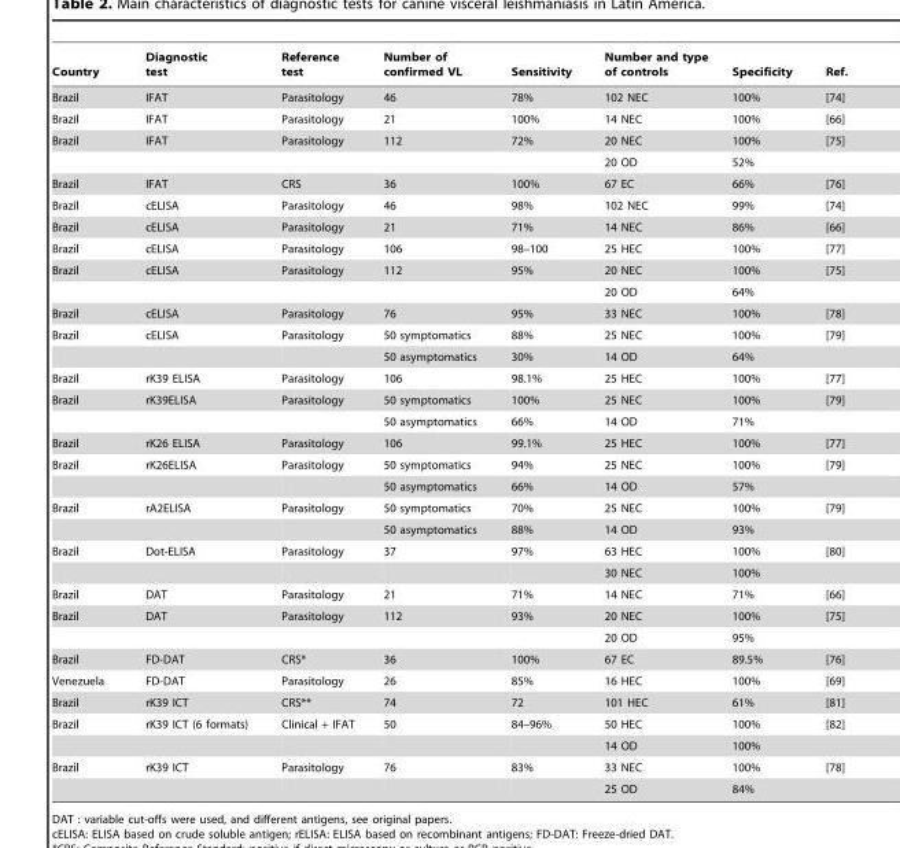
<table><thead><tr><td>Country</td><td>Diagnostic test</td><td>Reference test</td><td>Number of confirmed VL</td><td>Sensitivity</td><td>Number and type of controls</td><td>Specificity</td><td>Ref.</td></tr></thead><tbody><tr><td>Brazil</td><td>IFAT</td><td>Parasitology</td><td>46</td><td>78%</td><td>102 NEC</td><td>100%</td><td>[74]</td></tr><tr><td>Brazil</td><td>IFAT</td><td>Parasitology</td><td>21</td><td>100%</td><td>14 NEC</td><td>100%</td><td>[66]</td></tr><tr><td rowspan="2">Brazil</td><td>IFAT</td><td>Parasitology</td><td>112</td><td>72%</td><td>20 NEC</td><td>100%</td><td>[75]</td></tr><tr><td></td><td></td><td></td><td></td><td>20 OD</td><td>52%</td><td></td></tr><tr><td>Brazil</td><td>IFAT</td><td>CRS</td><td>36</td><td>100%</td><td>67 EC</td><td>66%</td><td>[76]</td></tr><tr><td>Brazil</td><td>cELISA</td><td>Parasitology</td><td>46</td><td>98%</td><td>102 NEC</td><td>99%</td><td>[74]</td></tr><tr><td>Brazil</td><td>cELISA</td><td>Parasitology</td><td>21</td><td>71%</td><td>14 NEC</td><td>86%</td><td>[66]</td></tr><tr><td>Brazil</td><td>cELISA</td><td>Parasitology</td><td>106</td><td>98–100</td><td>25 HEC</td><td>100%</td><td>[77]</td></tr><tr><td rowspan="2">Brazil</td><td>cELISA</td><td>Parasitology</td><td>112</td><td>95%</td><td>20 NEC</td><td>100%</td><td>[75]</td></tr><tr><td></td><td></td><td></td><td></td><td>20 OD</td><td>64%</td><td></td></tr><tr><td>Brazil</td><td>cELISA</td><td>Parasitology</td><td>76</td><td>95%</td><td>33 NEC</td><td>100%</td><td>[78]</td></tr><tr><td rowspan="2">Brazil</td><td>cELISA</td><td>Parasitology</td><td>50 symptomatics</td><td>88%</td><td>25 NEC</td><td>100%</td><td>[79]</td></tr><tr><td></td><td></td><td>50 asymptomatics</td><td>30%</td><td>14 OD</td><td>64%</td><td></td></tr><tr><td>Brazil</td><td>rK39 ELISA</td><td>Parasitology</td><td>106</td><td>98.1%</td><td>25 HEC</td><td>100%</td><td>[77]</td></tr><tr><td rowspan="2">Brazil</td><td>rK39ELISA</td><td>Parasitology</td><td>50 symptomatics</td><td>100%</td><td>25 NEC</td><td>100%</td><td>[79]</td></tr><tr><td></td><td></td><td>50 asymptomatics</td><td>66%</td><td>14 OD</td><td>71%</td><td></td></tr><tr><td>Brazil</td><td>rK26 ELISA</td><td>Parasitology</td><td>106</td><td>99.1%</td><td>25 HEC</td><td>100%</td><td>[77]</td></tr><tr><td rowspan="2">Brazil</td><td>rK26ELISA</td><td>Parasitology</td><td>50 symptomatics</td><td>94%</td><td>25 NEC</td><td>100%</td><td>[79]</td></tr><tr><td></td><td></td><td>50 asymptomatics</td><td>66%</td><td>14 OD</td><td>57%</td><td></td></tr><tr><td rowspan="2">Brazil</td><td>rA2ELISA</td><td>Parasitology</td><td>50 symptomatics</td><td>70%</td><td>25 NEC</td><td>100%</td><td>[79]</td></tr><tr><td></td><td></td><td>50 asymptomatics</td><td>88%</td><td>14 OD</td><td>93%</td><td></td></tr><tr><td rowspan="2">Brazil</td><td>Dot-ELISA</td><td>Parasitology</td><td>37</td><td>97%</td><td>63 HEC</td><td>100%</td><td>[80]</td></tr><tr><td></td><td></td><td></td><td></td><td>30 NEC</td><td>100%</td><td></td></tr><tr><td>Brazil</td><td>DAT</td><td>Parasitology</td><td>21</td><td>71%</td><td>14 NEC</td><td>71%</td><td>[66]</td></tr><tr><td rowspan="2">Brazil</td><td>DAT</td><td>Parasitology</td><td>112</td><td>93%</td><td>20 NEC</td><td>100%</td><td>[75]</td></tr><tr><td></td><td></td><td></td><td></td><td>20 OD</td><td>95%</td><td></td></tr><tr><td>Brazil</td><td>FD-DAT</td><td>CRS*</td><td>36</td><td>100%</td><td>67 EC</td><td>89.5%</td><td>[76]</td></tr><tr><td>Venezuela</td><td>FD-DAT</td><td>Parasitology</td><td>26</td><td>85%</td><td>16 HEC</td><td>100%</td><td>[69]</td></tr><tr><td>Brazil</td><td>rK39 ICT</td><td>CRS**</td><td>74</td><td>72</td><td>101 HEC</td><td>61%</td><td>[81]</td></tr><tr><td rowspan="2">Brazil</td><td>rK39 ICT (6 formats)</td><td>Clinical + IFAT</td><td>50</td><td>84–96%</td><td>50 HEC</td><td>100%</td><td>[82]</td></tr><tr><td></td><td></td><td></td><td></td><td>14 OD</td><td>100%</td><td></td></tr><tr><td rowspan="2">Brazil</td><td>rK39 ICT</td><td>Parasitology</td><td>76</td><td>83%</td><td>33 NEC</td><td>100%</td><td>[78]</td></tr><tr><td></td><td></td><td></td><td></td><td>25 OD</td><td>84%</td><td></td></tr></tbody></table>